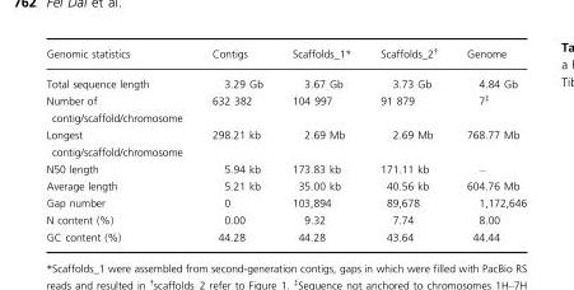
<table><thead><tr><td>Genomic statistics</td><td>Contigs</td><td>Scaffolds_1*</td><td>Scaffolds_2†</td><td>Genome</td></tr></thead><tbody><tr><td>Total sequence length</td><td>3.29 Gb</td><td>3.67 Gb</td><td>3.73 Gb</td><td>4.84 Gb</td></tr><tr><td>Number of contig/scaffold/chromosome</td><td>632 382</td><td>104 997</td><td>91 879</td><td>7‡</td></tr><tr><td>Longest contig/scaffold/chromosome</td><td>298.21 kb</td><td>2.69 Mb</td><td>2.69 Mb</td><td>768.77 Mb</td></tr><tr><td>N50 length</td><td>5.94 kb</td><td>173.83 kb</td><td>171.11 kb</td><td>–</td></tr><tr><td>Average length</td><td>5.21 kb</td><td>35.00 kb</td><td>40.56 kb</td><td>604.76 Mb</td></tr><tr><td>Gap number</td><td>0</td><td>103,894</td><td>89,678</td><td>1,172,646</td></tr><tr><td>N content (%)</td><td>0.00</td><td>9.32</td><td>7.74</td><td>8.00</td></tr><tr><td>GC content (%)</td><td>44.28</td><td>44.28</td><td>43.64</td><td>44.44</td></tr></tbody></table>